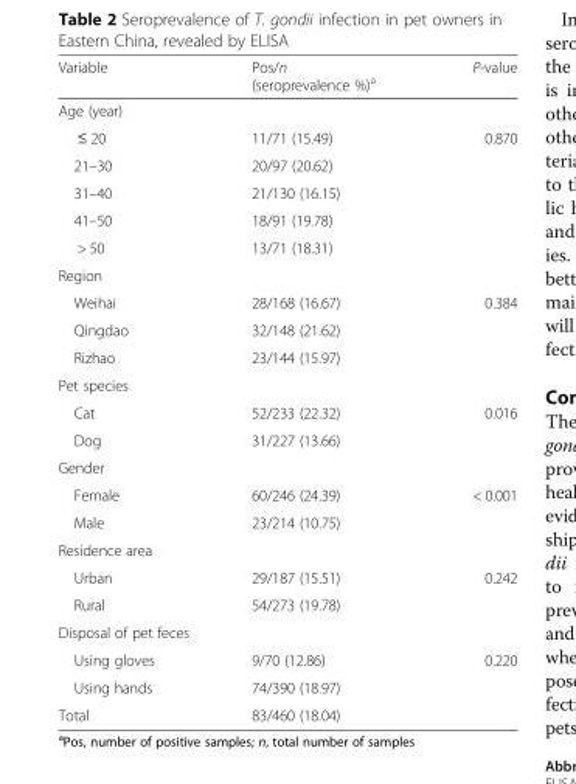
<table><thead><tr><td>Variable</td><td>Pos/n (seroprevalence %)<sup>a</sup></td><td>P-value</td></tr></thead><tbody><tr><td colspan="3">Age (year)</td></tr><tr><td>≤ 20</td><td>11/71 (15.49)</td><td>0.870</td></tr><tr><td>21–30</td><td>20/97 (20.62)</td><td></td></tr><tr><td>31–40</td><td>21/130 (16.15)</td><td></td></tr><tr><td>41–50</td><td>18/91 (19.78)</td><td></td></tr><tr><td>&gt; 50</td><td>13/71 (18.31)</td><td></td></tr><tr><td colspan="3">Region</td></tr><tr><td>Weihai</td><td>28/168 (16.67)</td><td>0.384</td></tr><tr><td>Qingdao</td><td>32/148 (21.62)</td><td></td></tr><tr><td>Rizhao</td><td>23/144 (15.97)</td><td></td></tr><tr><td colspan="3">Pet species</td></tr><tr><td>Cat</td><td>52/233 (22.32)</td><td>0.016</td></tr><tr><td>Dog</td><td>31/227 (13.66)</td><td></td></tr><tr><td colspan="3">Gender</td></tr><tr><td>Female</td><td>60/246 (24.39)</td><td>&lt; 0.001</td></tr><tr><td>Male</td><td>23/214 (10.75)</td><td></td></tr><tr><td colspan="3">Residence area</td></tr><tr><td>Urban</td><td>29/187 (15.51)</td><td>0.242</td></tr><tr><td>Rural</td><td>54/273 (19.78)</td><td></td></tr><tr><td colspan="3">Disposal of pet feces</td></tr><tr><td>Using gloves</td><td>9/70 (12.86)</td><td>0.220</td></tr><tr><td>Using hands</td><td>74/390 (18.97)</td><td></td></tr><tr><td>Total</td><td>83/460 (18.04)</td><td></td></tr></tbody></table>